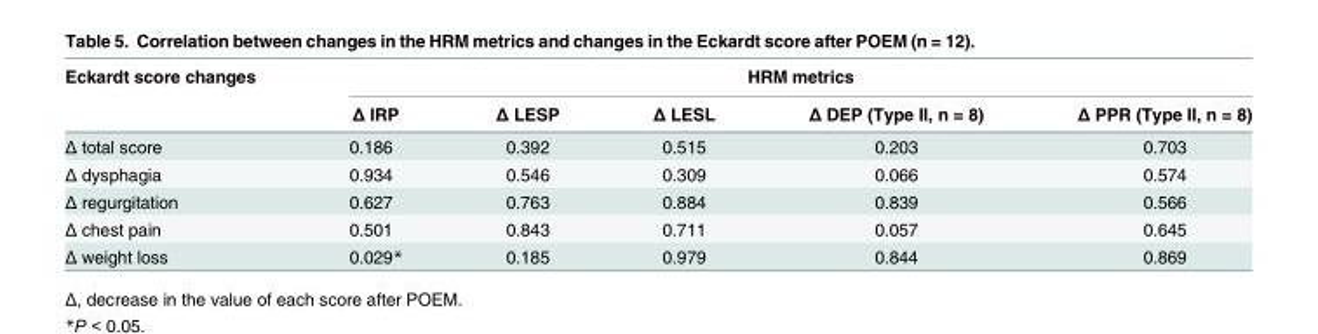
<table><thead><tr><td rowspan="2">Eckardt score changes</td><td colspan="5">HRM metrics</td></tr><tr><td>Δ IRP</td><td>Δ LESP</td><td>Δ LESL</td><td>Δ DEP (Type II, n = 8)</td><td>Δ PPR (Type II, n = 8)</td></tr></thead><tbody><tr><td>Δ total score</td><td>0.186</td><td>0.392</td><td>0.515</td><td>0.203</td><td>0.703</td></tr><tr><td>Δ dysphagia</td><td>0.934</td><td>0.546</td><td>0.309</td><td>0.066</td><td>0.574</td></tr><tr><td>Δ regurgitation</td><td>0.627</td><td>0.763</td><td>0.884</td><td>0.839</td><td>0.566</td></tr><tr><td>Δ chest pain</td><td>0.501</td><td>0.843</td><td>0.711</td><td>0.057</td><td>0.645</td></tr><tr><td>Δ weight loss</td><td>0.029*</td><td>0.185</td><td>0.979</td><td>0.844</td><td>0.869</td></tr></tbody></table>